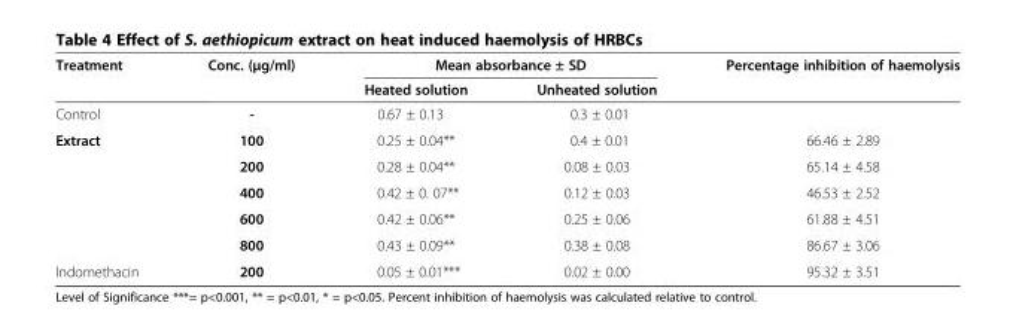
<table><thead><tr><td rowspan="2">Treatment</td><td rowspan="2">Conc. (μg/ml)</td><td colspan="2">Mean absorbance ± SD</td><td rowspan="2">Percentage inhibition of haemolysis</td></tr><tr><td>Heated solution</td><td>Unheated solution</td></tr></thead><tbody><tr><td>Control</td><td>-</td><td>0.67 ± 0.13</td><td>0.3 ± 0.01</td><td></td></tr><tr><td rowspan="5">Extract</td><td>100</td><td>0.25 ± 0.04**</td><td>0.4 ± 0.01</td><td>66.46 ± 2.89</td></tr><tr><td>200</td><td>0.28 ± 0.04**</td><td>0.08 ± 0.03</td><td>65.14 ± 4.58</td></tr><tr><td>400</td><td>0.42 ± 0. 07**</td><td>0.12 ± 0.03</td><td>46.53 ± 2.52</td></tr><tr><td>600</td><td>0.42 ± 0.06**</td><td>0.25 ± 0.06</td><td>61.88 ± 4.51</td></tr><tr><td>800</td><td>0.43 ± 0.09**</td><td>0.38 ± 0.08</td><td>86.67 ± 3.06</td></tr><tr><td>Indomethacin</td><td>200</td><td>0.05 ± 0.01***</td><td>0.02 ± 0.00</td><td>95.32 ± 3.51</td></tr></tbody></table>